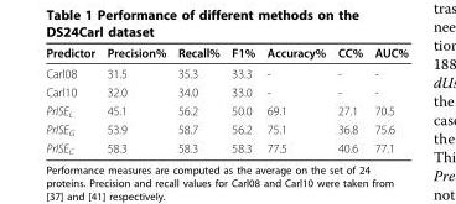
<table><thead><tr><td>Predictor</td><td>Precision%</td><td>Recall%</td><td>F1%</td><td>Accuracy%</td><td>CC%</td><td>AUC%</td></tr></thead><tbody><tr><td>Carl08</td><td>31.5</td><td>35.3</td><td>33.3</td><td>-</td><td>-</td><td>-</td></tr><tr><td>Carl10</td><td>32.0</td><td>34.0</td><td>33.0</td><td>-</td><td>-</td><td>-</td></tr><tr><td>PrISE<sub>L</sub></td><td>45.1</td><td>56.2</td><td>50.0</td><td>69.1</td><td>27.1</td><td>70.5</td></tr><tr><td>PrISE<sub>G</sub></td><td>53.9</td><td>58.7</td><td>56.2</td><td>75.1</td><td>36.8</td><td>75.6</td></tr><tr><td>PrISE<sub>C</sub></td><td>58.3</td><td>58.3</td><td>58.3</td><td>77.5</td><td>40.6</td><td>77.1</td></tr></tbody></table>